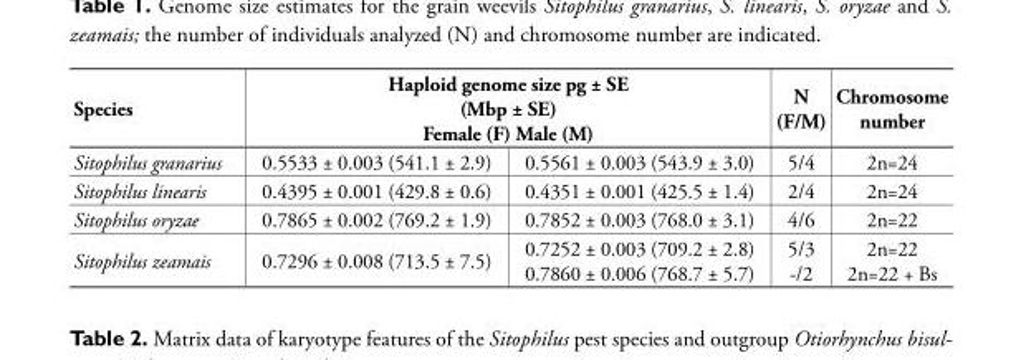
<table><thead><tr><td rowspan="2">Species Sitophilus granarius</td><td colspan="2">Haploid genome size pg ± SE (Mbp ± SE) Female (F) Male (M)</td><td rowspan="2">N (F/M) 5/4</td><td rowspan="2">Chromosome number 2n=24</td></tr><tr><td>0.5533 ± 0.003 (541.1 ± 2.9)</td><td>0.5561 ± 0.003 (543.9 ± 3.0)</td></tr></thead><tbody><tr><td>Sitophilus linearis</td><td>0.4395 ± 0.001 (429.8 ± 0.6)</td><td>0.4351 ± 0.001 (425.5 ± 1.4)</td><td>2/4</td><td>2n=24</td></tr><tr><td>Sitophilus oryzae</td><td>0.7865 ± 0.002 (769.2 ± 1.9)</td><td>0.7852 ± 0.003 (768.0 ± 3.1)</td><td>4/6</td><td>2n=22</td></tr><tr><td>Sitophilus zeamais</td><td>0.7296 ± 0.008 (713.5 ± 7.5)</td><td>0.7252 ± 0.003 (709.2 ± 2.8) 0.7860 ± 0.006 (768.7 ± 5.7)</td><td>5/3 -/2</td><td>2n=22 2n=22 + Bs</td></tr></tbody></table>